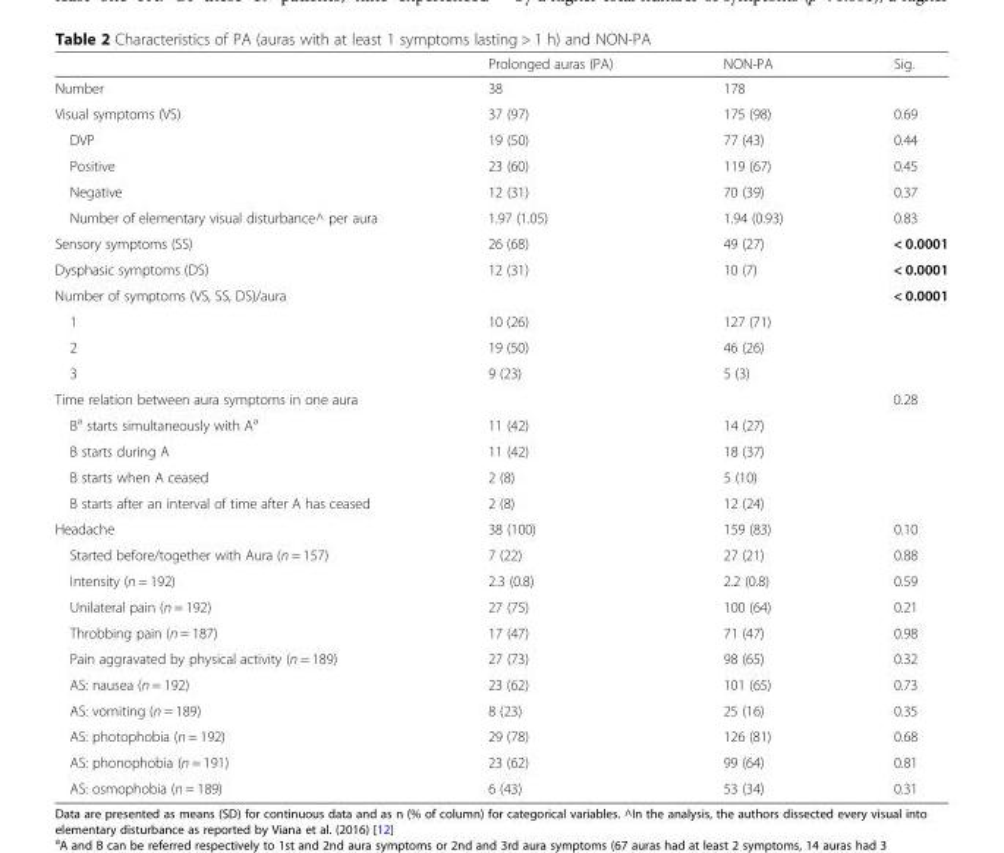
<table><thead><tr><td></td><td>Prolonged auras (PA)</td><td>NON-PA</td><td>Sig.</td></tr></thead><tbody><tr><td>Number</td><td>38</td><td>178</td><td></td></tr><tr><td>Visual symptoms (VS)</td><td>37 (97)</td><td>175 (98)</td><td>0.69</td></tr><tr><td>DVP</td><td>19 (50)</td><td>77 (43)</td><td>0.44</td></tr><tr><td>Positive</td><td>23 (60)</td><td>119 (67)</td><td>0.45</td></tr><tr><td>Negative</td><td>12 (31)</td><td>70 (39)</td><td>0.37</td></tr><tr><td>Number of elementary visual disturbance^ per aura</td><td>1.97 (1.05)</td><td>1.94 (0.93)</td><td>0.83</td></tr><tr><td>Sensory symptoms (SS)</td><td>26 (68)</td><td>49 (27)</td><td>&lt; 0.0001</td></tr><tr><td>Dysphasic symptoms (DS)</td><td>12 (31)</td><td>10 (7)</td><td>&lt; 0.0001</td></tr><tr><td>Number of symptoms (VS, SS, DS)/aura</td><td></td><td></td><td>&lt; 0.0001</td></tr><tr><td>1</td><td>10 (26)</td><td>127 (71)</td><td></td></tr><tr><td>2</td><td>19 (50)</td><td>46 (26)</td><td></td></tr><tr><td>3</td><td>9 (23)</td><td>5 (3)</td><td></td></tr><tr><td>Time relation between aura symptoms in one aura</td><td></td><td></td><td>0.28</td></tr><tr><td>B<sup>a</sup> starts simultaneously with A<sup>a</sup></td><td>11 (42)</td><td>14 (27)</td><td></td></tr><tr><td>B starts during A</td><td>11 (42)</td><td>18 (37)</td><td></td></tr><tr><td>B starts when A ceased</td><td>2 (8)</td><td>5 (10)</td><td></td></tr><tr><td>B starts after an interval of time after A has ceased</td><td>2 (8)</td><td>12 (24)</td><td></td></tr><tr><td>Headache</td><td>38 (100)</td><td>159 (83)</td><td>0.10</td></tr><tr><td>Started before/together with Aura (n = 157)</td><td>7 (22)</td><td>27 (21)</td><td>0.88</td></tr><tr><td>Intensity (n = 192)</td><td>2.3 (0.8)</td><td>2.2 (0.8)</td><td>0.59</td></tr><tr><td>Unilateral pain (n = 192)</td><td>27 (75)</td><td>100 (64)</td><td>0.21</td></tr><tr><td>Throbbing pain (n = 187)</td><td>17 (47)</td><td>71 (47)</td><td>0.98</td></tr><tr><td>Pain aggravated by physical activity (n = 189)</td><td>27 (73)</td><td>98 (65)</td><td>0.32</td></tr><tr><td>AS: nausea (n = 192)</td><td>23 (62)</td><td>101 (65)</td><td>0.73</td></tr><tr><td>AS: vomiting (n = 189)</td><td>8 (23)</td><td>25 (16)</td><td>0.35</td></tr><tr><td>AS: photophobia (n = 192)</td><td>29 (78)</td><td>126 (81)</td><td>0.68</td></tr><tr><td>AS: phonophobia (n = 191)</td><td>23 (62)</td><td>99 (64)</td><td>0.81</td></tr><tr><td>AS: osmophobia (n = 189)</td><td>6 (43)</td><td>53 (34)</td><td>0.31</td></tr></tbody></table>